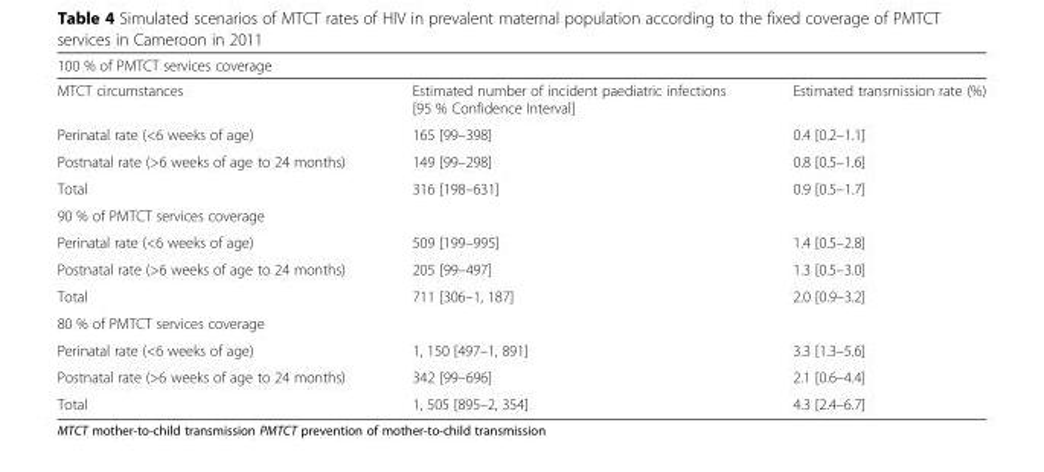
<table><thead><tr><td colspan="3">100 % of PMTCT services coverage</td></tr><tr><td>MTCT circumstances</td><td>Estimated number of incident paediatric infections [95 % Confidence Interval]</td><td>Estimated transmission rate (%)</td></tr></thead><tbody><tr><td>Perinatal rate (&lt;6 weeks of age)</td><td>165 [99–398]</td><td>0.4 [0.2–1.1]</td></tr><tr><td>Postnatal rate (&gt;6 weeks of age to 24 months)</td><td>149 [99–298]</td><td>0.8 [0.5–1.6]</td></tr><tr><td>Total</td><td>316 [198–631]</td><td>0.9 [0.5–1.7]</td></tr><tr><td colspan="3">90 % of PMTCT services coverage</td></tr><tr><td>Perinatal rate (&lt;6 weeks of age)</td><td>509 [199–995]</td><td>1.4 [0.5–2.8]</td></tr><tr><td>Postnatal rate (&gt;6 weeks of age to 24 months)</td><td>205 [99–497]</td><td>1.3 [0.5–3.0]</td></tr><tr><td>Total</td><td>711 [306–1, 187]</td><td>2.0 [0.9–3.2]</td></tr><tr><td colspan="3">80 % of PMTCT services coverage</td></tr><tr><td>Perinatal rate (&lt;6 weeks of age)</td><td>1, 150 [497–1, 891]</td><td>3.3 [1.3–5.6]</td></tr><tr><td>Postnatal rate (&gt;6 weeks of age to 24 months)</td><td>342 [99–696]</td><td>2.1 [0.6–4.4]</td></tr><tr><td>Total</td><td>1, 505 [895–2, 354]</td><td>4.3 [2.4–6.7]</td></tr></tbody></table>